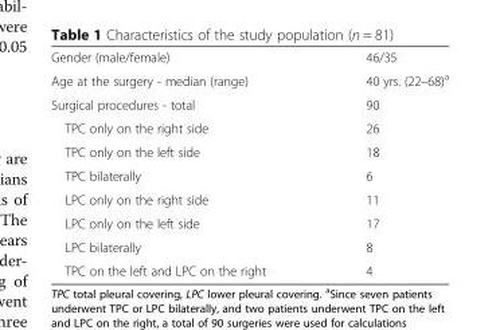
<table><tbody><tr><td>Gender (male/female)</td><td>46/35</td></tr><tr><td>Age at the surgery - median (range)</td><td>40 yrs. (22–68)<sup>a</sup></td></tr><tr><td>Surgical procedures - total</td><td>90</td></tr><tr><td>TPC only on the right side</td><td>26</td></tr><tr><td>TPC only on the left side</td><td>18</td></tr><tr><td>TPC bilaterally</td><td>6</td></tr><tr><td>LPC only on the right side</td><td>11</td></tr><tr><td>LPC only on the left side</td><td>17</td></tr><tr><td>LPC bilaterally</td><td>8</td></tr><tr><td>TPC on the left and LPC on the right</td><td>4</td></tr></tbody></table>